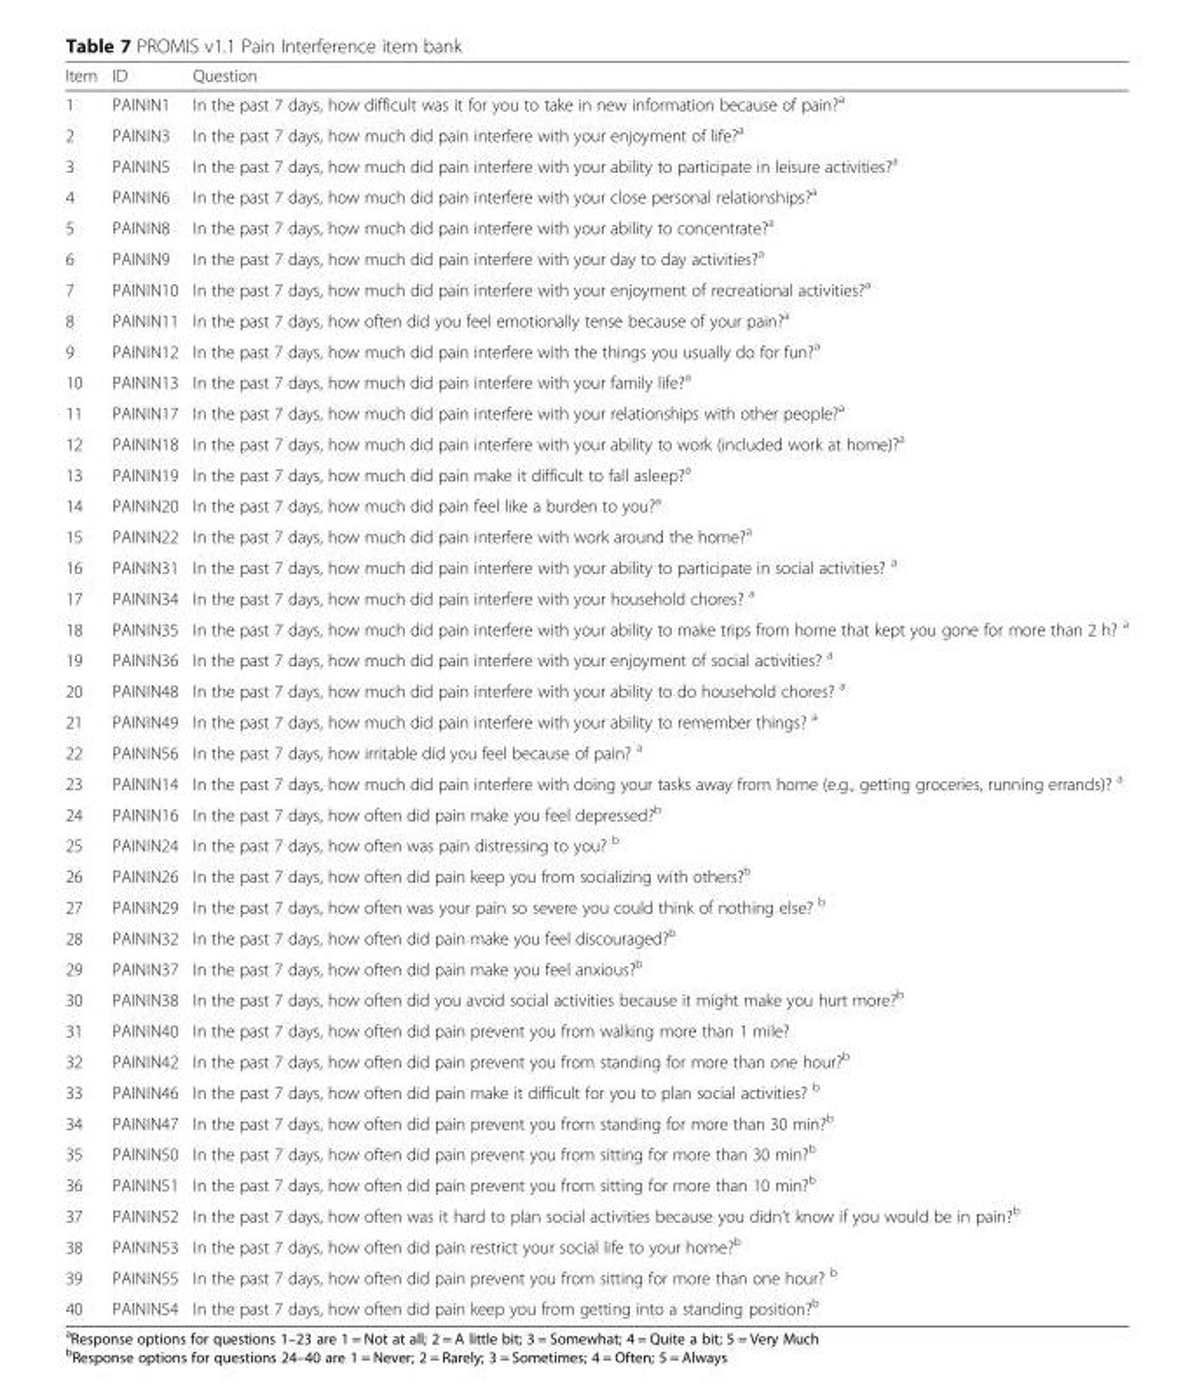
<table><thead><tr><td>Item</td><td>ID</td><td>Question</td></tr></thead><tbody><tr><td>1</td><td>PAININ1</td><td>In the past 7 days, how difficult was it for you to take in new information because of pain?<sup>a</sup></td></tr><tr><td>2</td><td>PAININ3</td><td>In the past 7 days, how much did pain interfere with your enjoyment of life?<sup>a</sup></td></tr><tr><td>3</td><td>PAININ5</td><td>In the past 7 days, how much did pain interfere with your ability to participate in leisure activities?<sup>a</sup></td></tr><tr><td>4</td><td>PAININ6</td><td>In the past 7 days, how much did pain interfere with your close personal relationships?<sup>a</sup></td></tr><tr><td>5</td><td>PAININ8</td><td>In the past 7 days, how much did pain interfere with your ability to concentrate?<sup>a</sup></td></tr><tr><td>6</td><td>PAININ9</td><td>In the past 7 days, how much did pain interfere with your day to day activities?<sup>a</sup></td></tr><tr><td>7</td><td>PAININ10</td><td>In the past 7 days, how much did pain interfere with your enjoyment of recreational activities?<sup>a</sup></td></tr><tr><td>8</td><td>PAININ11</td><td>In the past 7 days, how often did you feel emotionally tense because of your pain?<sup>a</sup></td></tr><tr><td>9</td><td>PAININ12</td><td>In the past 7 days, how much did pain interfere with the things you usually do for fun?<sup>a</sup></td></tr><tr><td>10</td><td>PAININ13</td><td>In the past 7 days, how much did pain interfere with your family life?<sup>a</sup></td></tr><tr><td>11</td><td>PAININ17</td><td>In the past 7 days, how much did pain interfere with your relationships with other people?<sup>a</sup></td></tr><tr><td>12</td><td>PAININ18</td><td>In the past 7 days, how much did pain interfere with your ability to work (included work at home)?<sup>a</sup></td></tr><tr><td>13</td><td>PAININ19</td><td>In the past 7 days, how much did pain make it difficult to fall asleep?<sup>a</sup></td></tr><tr><td>14</td><td>PAININ20</td><td>In the past 7 days, how much did pain feel like a burden to you?<sup>a</sup></td></tr><tr><td>15</td><td>PAININ22</td><td>In the past 7 days, how much did pain interfere with work around the home?<sup>a</sup></td></tr><tr><td>16</td><td>PAININ31</td><td>In the past 7 days, how much did pain interfere with your ability to participate in social activities? <sup>a</sup></td></tr><tr><td>17</td><td>PAININ34</td><td>In the past 7 days, how much did pain interfere with your household chores? <sup>a</sup></td></tr><tr><td>18</td><td>PAININ35</td><td>In the past 7 days, how much did pain interfere with your ability to make trips from home that kept you gone for more than 2 h? <sup>a</sup></td></tr><tr><td>19</td><td>PAININ36</td><td>In the past 7 days, how much did pain interfere with your enjoyment of social activities? <sup>a</sup></td></tr><tr><td>20</td><td>PAININ48</td><td>In the past 7 days, how much did pain interfere with your ability to do household chores? <sup>a</sup></td></tr><tr><td>21</td><td>PAININ49</td><td>In the past 7 days, how much did pain interfere with your ability to remember things? <sup>a</sup></td></tr><tr><td>22</td><td>PAININ56</td><td>In the past 7 days, how irritable did you feel because of pain? <sup>a</sup></td></tr><tr><td>23</td><td>PAININ14</td><td>In the past 7 days, how much did pain interfere with doing your tasks away from home (e.g., getting groceries, running errands)? <sup>a</sup></td></tr><tr><td>24</td><td>PAININ16</td><td>In the past 7 days, how often did pain make you feel depressed?<sup>b</sup></td></tr><tr><td>25</td><td>PAININ24</td><td>In the past 7 days, how often was pain distressing to you? <sup>b</sup></td></tr><tr><td>26</td><td>PAININ26</td><td>In the past 7 days, how often did pain keep you from socializing with others?<sup>b</sup></td></tr><tr><td>27</td><td>PAININ29</td><td>In the past 7 days, how often was your pain so severe you could think of nothing else? <sup>b</sup></td></tr><tr><td>28</td><td>PAININ32</td><td>In the past 7 days, how often did pain make you feel discouraged?<sup>b</sup></td></tr><tr><td>29</td><td>PAININ37</td><td>In the past 7 days, how often did pain make you feel anxious?<sup>b</sup></td></tr><tr><td>30</td><td>PAININ38</td><td>In the past 7 days, how often did you avoid social activities because it might make you hurt more?<sup>b</sup></td></tr><tr><td>31</td><td>PAININ40</td><td>In the past 7 days, how often did pain prevent you from walking more than 1 mile?</td></tr><tr><td>32</td><td>PAININ42</td><td>In the past 7 days, how often did pain prevent you from standing for more than one hour?<sup>b</sup></td></tr><tr><td>33</td><td>PAININ46</td><td>In the past 7 days, how often did pain make it difficult for you to plan social activities? <sup>b</sup></td></tr><tr><td>34</td><td>PAININ47</td><td>In the past 7 days, how often did pain prevent you from standing for more than 30 min?<sup>b</sup></td></tr><tr><td>35</td><td>PAININ50</td><td>In the past 7 days, how often did pain prevent you from sitting for more than 30 min?<sup>b</sup></td></tr><tr><td>36</td><td>PAININ51</td><td>In the past 7 days, how often did pain prevent you from sitting for more than 10 min?<sup>b</sup></td></tr><tr><td>37</td><td>PAININ52</td><td>In the past 7 days, how often was it hard to plan social activities because you didn’t know if you would be in pain?<sup>b</sup></td></tr><tr><td>38</td><td>PAININ53</td><td>In the past 7 days, how often did pain restrict your social life to your home?<sup>b</sup></td></tr><tr><td>39</td><td>PAININ55</td><td>In the past 7 days, how often did pain prevent you from sitting for more than one hour? <sup>b</sup></td></tr><tr><td>40</td><td>PAININ54</td><td>In the past 7 days, how often did pain keep you from getting into a standing position?<sup>b</sup></td></tr></tbody></table>